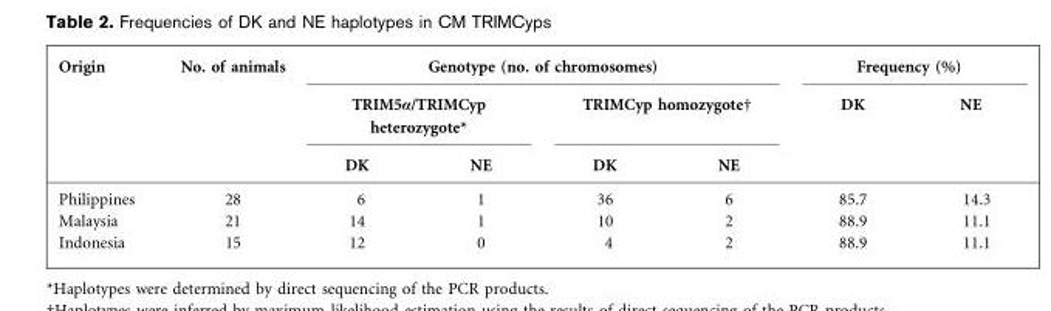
<table><thead><tr><td rowspan="3">Origin</td><td rowspan="3">No. of animals</td><td colspan="4">Genotype (no. of chromosomes)</td><td colspan="2">Frequency (%)</td></tr><tr><td colspan="2">TRIM5α/TRIMCyp heterozygote*</td><td colspan="2">TRIMCyp homozygote†</td><td rowspan="2">DK</td><td rowspan="2">NE</td></tr><tr><td>DK</td><td>NE</td><td>DK</td><td>NE</td></tr></thead><tbody><tr><td>Philippines</td><td>28</td><td>6</td><td>1</td><td>36</td><td>6</td><td>85.7</td><td>14.3</td></tr><tr><td>Malaysia</td><td>21</td><td>14</td><td>1</td><td>10</td><td>2</td><td>88.9</td><td>11.1</td></tr><tr><td>Indonesia</td><td>15</td><td>12</td><td>0</td><td>4</td><td>2</td><td>88.9</td><td>11.1</td></tr></tbody></table>